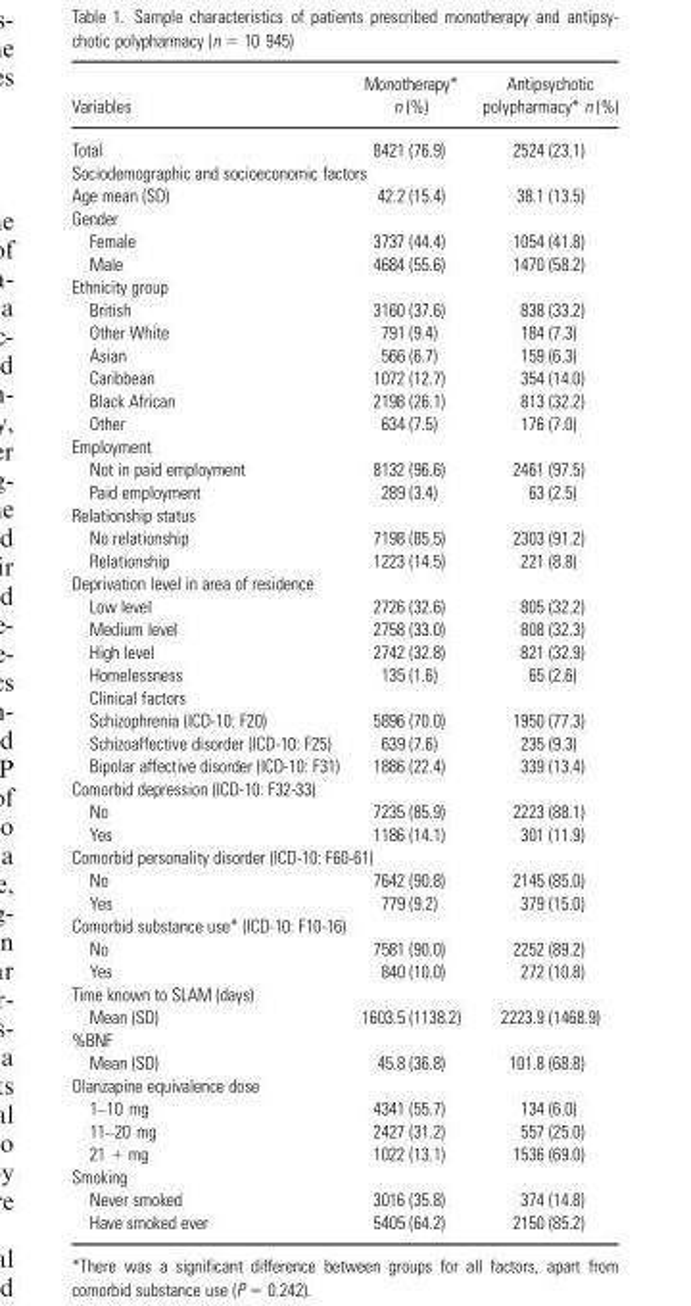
<table><thead><tr><td>Variables</td><td>Monotherapy* n (%)</td><td>Antipsychotic polypharmacy* n (%)</td></tr></thead><tbody><tr><td>Total</td><td>8421 (76.9)</td><td>2524 (23.1)</td></tr><tr><td colspan="3">Sociodemographic and socioeconomic factors</td></tr><tr><td>Age mean (SD)</td><td>42.2 (15.4)</td><td>38.1 (13.5)</td></tr><tr><td colspan="3">Gender</td></tr><tr><td>Female</td><td>3737 (44.4)</td><td>1054 (41.8)</td></tr><tr><td>Male</td><td>4684 (55.6)</td><td>1470 (58.2)</td></tr><tr><td colspan="3">Ethnicity group</td></tr><tr><td>British</td><td>3160 (37.6)</td><td>838 (33.2)</td></tr><tr><td>Other White</td><td>791 (9.4)</td><td>184 (7.3)</td></tr><tr><td>Asian</td><td>566 (6.7)</td><td>159 (6.3)</td></tr><tr><td>Caribbean</td><td>1072 (12.7)</td><td>354 (14.0)</td></tr><tr><td>Black African</td><td>2198 (26.1)</td><td>813 (32.2)</td></tr><tr><td>Other</td><td>634 (7.5)</td><td>176 (7.0)</td></tr><tr><td colspan="3">Employment</td></tr><tr><td>Not in paid employment</td><td>8132 (96.6)</td><td>2461 (97.5)</td></tr><tr><td>Paid employment</td><td>289 (3.4)</td><td>63 (2.5)</td></tr><tr><td colspan="3">Relationship status</td></tr><tr><td>No relationship</td><td>7198 (85.5)</td><td>2303 (91.2)</td></tr><tr><td>Relationship</td><td>1223 (14.5)</td><td>221 (8.8)</td></tr><tr><td colspan="3">Deprivation level in area of residence</td></tr><tr><td>Low level</td><td>2726 (32.6)</td><td>805 (32.2)</td></tr><tr><td>Medium level</td><td>2758 (33.0)</td><td>808 (32.3)</td></tr><tr><td>High level</td><td>2742 (32.8)</td><td>821 (32.9)</td></tr><tr><td>Homelessness</td><td>135 (1.6)</td><td>65 (2.6)</td></tr><tr><td colspan="3">Clinical factors</td></tr><tr><td>Schizophrenia (ICD-10: F20)</td><td>5896 (70.0)</td><td>1950 (77.3)</td></tr><tr><td>Schizoaffective disorder (ICD-10: F25)</td><td>639 (7.6)</td><td>235 (9.3)</td></tr><tr><td>Bipolar affective disorder (ICD-10: F31)</td><td>1886 (22.4)</td><td>339 (13.4)</td></tr><tr><td colspan="3">Comorbid depression (ICD-10: F32-33)</td></tr><tr><td>No</td><td>7235 (85.9)</td><td>2223 (88.1)</td></tr><tr><td>Yes</td><td>1186 (14.1)</td><td>301 (11.9)</td></tr><tr><td colspan="3">Comorbid personality disorder (ICD-10: F60-61)</td></tr><tr><td>No</td><td>7642 (90.8)</td><td>2145 (85.0)</td></tr><tr><td>Yes</td><td>779 (9.2)</td><td>379 (15.0)</td></tr><tr><td colspan="3">Comorbid substance use* (ICD-10: F10-16)</td></tr><tr><td>No</td><td>7581 (90.0)</td><td>2252 (89.2)</td></tr><tr><td>Yes</td><td>840 (10.0)</td><td>272 (10.8)</td></tr><tr><td colspan="3">Time known to SLAM (days)</td></tr><tr><td>Mean (SD)</td><td>1603.5 (1138.2)</td><td>2223.9 (1468.9)</td></tr><tr><td colspan="3">%BNF</td></tr><tr><td>Mean (SD)</td><td>45.8 (36.8)</td><td>101.8 (68.8)</td></tr><tr><td colspan="3">Olanzapine equivalence dose</td></tr><tr><td>1–10 mg</td><td>4341 (55.7)</td><td>134 (6.0)</td></tr><tr><td>11–20 mg</td><td>2427 (31.2)</td><td>557 (25.0)</td></tr><tr><td>21 + mg</td><td>1022 (13.1)</td><td>1536 (69.0)</td></tr><tr><td colspan="3">Smoking</td></tr><tr><td>Never smoked</td><td>3016 (35.8)</td><td>374 (14.8)</td></tr><tr><td>Have smoked ever</td><td>5405 (64.2)</td><td>2150 (85.2)</td></tr></tbody></table>